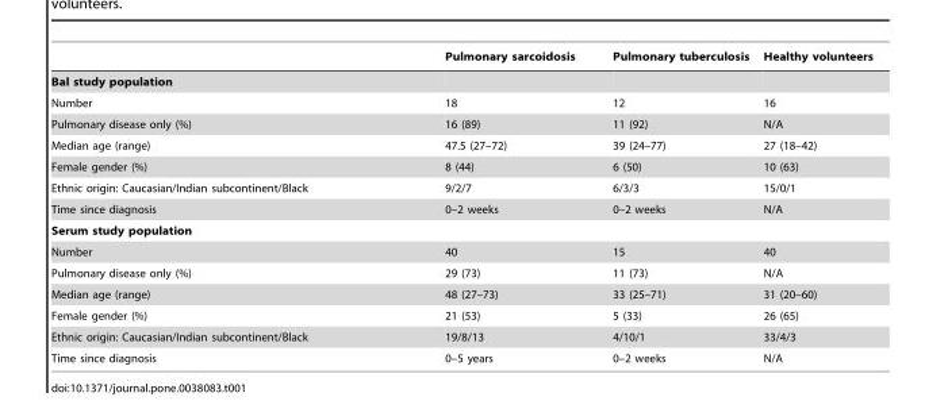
<table><thead><tr><td></td><td>Pulmonary sarcoidosis</td><td>Pulmonary tuberculosis</td><td>Healthy volunteers</td></tr></thead><tbody><tr><td colspan="4">Bal study population</td></tr><tr><td>Number</td><td>18</td><td>12</td><td>16</td></tr><tr><td>Pulmonary disease only (%)</td><td>16 (89)</td><td>11 (92)</td><td>N/A</td></tr><tr><td>Median age (range)</td><td>47.5 (27–72)</td><td>39 (24–77)</td><td>27 (18–42)</td></tr><tr><td>Female gender (%)</td><td>8 (44)</td><td>6 (50)</td><td>10 (63)</td></tr><tr><td>Ethnic origin: Caucasian/Indian subcontinent/Black</td><td>9/2/7</td><td>6/3/3</td><td>15/0/1</td></tr><tr><td>Time since diagnosis</td><td>0–2 weeks</td><td>0–2 weeks</td><td>N/A</td></tr><tr><td colspan="4">Serum study population</td></tr><tr><td>Number</td><td>40</td><td>15</td><td>40</td></tr><tr><td>Pulmonary disease only (%)</td><td>29 (73)</td><td>11 (73)</td><td>N/A</td></tr><tr><td>Median age (range)</td><td>48 (27–73)</td><td>33 (25–71)</td><td>31 (20–60)</td></tr><tr><td>Female gender (%)</td><td>21 (53)</td><td>5 (33)</td><td>26 (65)</td></tr><tr><td>Ethnic origin: Caucasian/Indian subcontinent/Black</td><td>19/8/13</td><td>4/10/1</td><td>33/4/3</td></tr><tr><td>Time since diagnosis</td><td>0–5 years</td><td>0–2 weeks</td><td>N/A</td></tr></tbody></table>